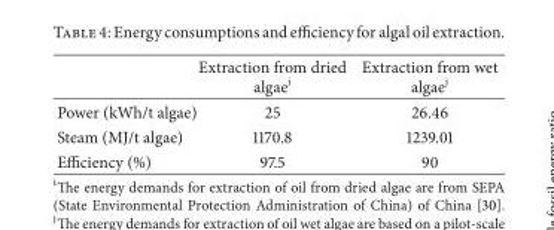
<table><thead><tr><td></td><td>Extraction from dried algae<sup>i</sup></td><td>Extraction from wet algae<sup>j</sup></td></tr></thead><tbody><tr><td>Power (kWh/t algae)</td><td>25</td><td>26.46</td></tr><tr><td>Steam (MJ/t algae)</td><td>1170.8</td><td>1239.01</td></tr><tr><td>Efficiency (%)</td><td>97.5</td><td>90</td></tr></tbody></table>